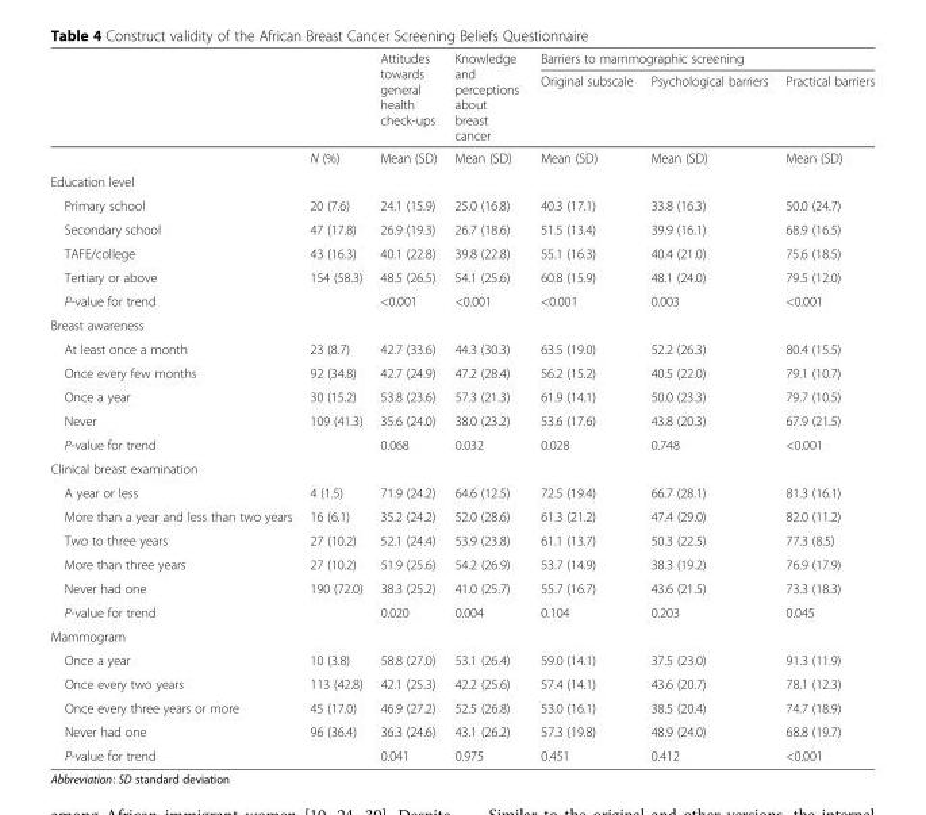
<table><thead><tr><td rowspan="2"></td><td rowspan="2"></td><td rowspan="2">Attitudes towards general health check-ups</td><td rowspan="2">Knowledge and perceptions about breast cancer</td><td colspan="3">Barriers to mammographic screening</td></tr><tr><td>Original subscale</td><td>Psychological barriers</td><td>Practical barriers</td></tr></thead><tbody><tr><td></td><td>N (%)</td><td>Mean (SD)</td><td>Mean (SD)</td><td>Mean (SD)</td><td>Mean (SD)</td><td>Mean (SD)</td></tr><tr><td colspan="7">Education level</td></tr><tr><td>Primary school</td><td>20 (7.6)</td><td>24.1 (15.9)</td><td>25.0 (16.8)</td><td>40.3 (17.1)</td><td>33.8 (16.3)</td><td>50.0 (24.7)</td></tr><tr><td>Secondary school</td><td>47 (17.8)</td><td>26.9 (19.3)</td><td>26.7 (18.6)</td><td>51.5 (13.4)</td><td>39.9 (16.1)</td><td>68.9 (16.5)</td></tr><tr><td>TAFE/college</td><td>43 (16.3)</td><td>40.1 (22.8)</td><td>39.8 (22.8)</td><td>55.1 (16.3)</td><td>40.4 (21.0)</td><td>75.6 (18.5)</td></tr><tr><td>Tertiary or above</td><td>154 (58.3)</td><td>48.5 (26.5)</td><td>54.1 (25.6)</td><td>60.8 (15.9)</td><td>48.1 (24.0)</td><td>79.5 (12.0)</td></tr><tr><td>P-value for trend</td><td></td><td>&lt;0.001</td><td>&lt;0.001</td><td>&lt;0.001</td><td>0.003</td><td>&lt;0.001</td></tr><tr><td colspan="7">Breast awareness</td></tr><tr><td>At least once a month</td><td>23 (8.7)</td><td>42.7 (33.6)</td><td>44.3 (30.3)</td><td>63.5 (19.0)</td><td>52.2 (26.3)</td><td>80.4 (15.5)</td></tr><tr><td>Once every few months</td><td>92 (34.8)</td><td>42.7 (24.9)</td><td>47.2 (28.4)</td><td>56.2 (15.2)</td><td>40.5 (22.0)</td><td>79.1 (10.7)</td></tr><tr><td>Once a year</td><td>30 (15.2)</td><td>53.8 (23.6)</td><td>57.3 (21.3)</td><td>61.9 (14.1)</td><td>50.0 (23.3)</td><td>79.7 (10.5)</td></tr><tr><td>Never</td><td>109 (41.3)</td><td>35.6 (24.0)</td><td>38.0 (23.2)</td><td>53.6 (17.6)</td><td>43.8 (20.3)</td><td>67.9 (21.5)</td></tr><tr><td>P-value for trend</td><td></td><td>0.068</td><td>0.032</td><td>0.028</td><td>0.748</td><td>&lt;0.001</td></tr><tr><td colspan="7">Clinical breast examination</td></tr><tr><td>A year or less</td><td>4 (1.5)</td><td>71.9 (24.2)</td><td>64.6 (12.5)</td><td>72.5 (19.4)</td><td>66.7 (28.1)</td><td>81.3 (16.1)</td></tr><tr><td>More than a year and less than two years</td><td>16 (6.1)</td><td>35.2 (24.2)</td><td>52.0 (28.6)</td><td>61.3 (21.2)</td><td>47.4 (29.0)</td><td>82.0 (11.2)</td></tr><tr><td>Two to three years</td><td>27 (10.2)</td><td>52.1 (24.4)</td><td>53.9 (23.8)</td><td>61.1 (13.7)</td><td>50.3 (22.5)</td><td>77.3 (8.5)</td></tr><tr><td>More than three years</td><td>27 (10.2)</td><td>51.9 (25.6)</td><td>54.2 (26.9)</td><td>53.7 (14.9)</td><td>38.3 (19.2)</td><td>76.9 (17.9)</td></tr><tr><td>Never had one</td><td>190 (72.0)</td><td>38.3 (25.2)</td><td>41.0 (25.7)</td><td>55.7 (16.7)</td><td>43.6 (21.5)</td><td>73.3 (18.3)</td></tr><tr><td>P-value for trend</td><td></td><td>0.020</td><td>0.004</td><td>0.104</td><td>0.203</td><td>0.045</td></tr><tr><td colspan="7">Mammogram</td></tr><tr><td>Once a year</td><td>10 (3.8)</td><td>58.8 (27.0)</td><td>53.1 (26.4)</td><td>59.0 (14.1)</td><td>37.5 (23.0)</td><td>91.3 (11.9)</td></tr><tr><td>Once every two years</td><td>113 (42.8)</td><td>42.1 (25.3)</td><td>42.2 (25.6)</td><td>57.4 (14.1)</td><td>43.6 (20.7)</td><td>78.1 (12.3)</td></tr><tr><td>Once every three years or more</td><td>45 (17.0)</td><td>46.9 (27.2)</td><td>52.5 (26.8)</td><td>53.0 (16.1)</td><td>38.5 (20.4)</td><td>74.7 (18.9)</td></tr><tr><td>Never had one</td><td>96 (36.4)</td><td>36.3 (24.6)</td><td>43.1 (26.2)</td><td>57.3 (19.8)</td><td>48.9 (24.0)</td><td>68.8 (19.7)</td></tr><tr><td>P-value for trend</td><td></td><td>0.041</td><td>0.975</td><td>0.451</td><td>0.412</td><td>&lt;0.001</td></tr></tbody></table>